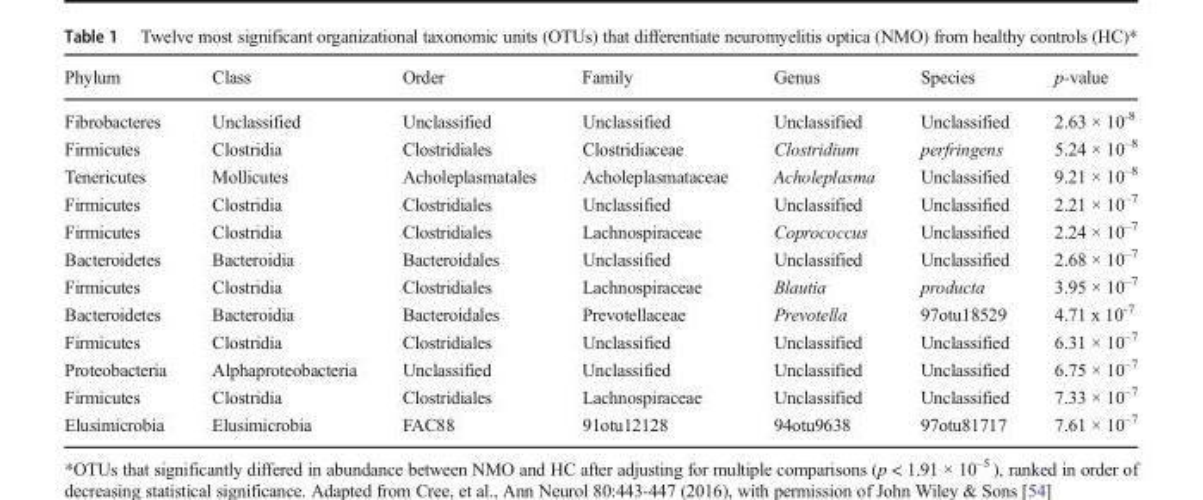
<table><thead><tr><td>Phylum</td><td>Class</td><td>Order</td><td>Family</td><td>Genus</td><td>Species</td><td>p-value</td></tr></thead><tbody><tr><td>Fibrobacteres</td><td>Unclassified</td><td>Unclassified</td><td>Unclassified</td><td>Unclassified</td><td>Unclassified</td><td>2.63 × 10<sup>-8</sup></td></tr><tr><td>Firmicutes</td><td>Clostridia</td><td>Clostridiales</td><td>Clostridiaceae</td><td>Clostridium</td><td>perfringens</td><td>5.24 × 10<sup>–8</sup></td></tr><tr><td>Tenericutes</td><td>Mollicutes</td><td>Acholeplasmatales</td><td>Acholeplasmataceae</td><td>Acholeplasma</td><td>Unclassified</td><td>9.21 × 10<sup>–8</sup></td></tr><tr><td>Firmicutes</td><td>Clostridia</td><td>Clostridiales</td><td>Unclassified</td><td>Unclassified</td><td>Unclassified</td><td>2.21 × 10<sup>–7</sup></td></tr><tr><td>Firmicutes</td><td>Clostridia</td><td>Clostridiales</td><td>Lachnospiraceae</td><td>Coprococcus</td><td>Unclassified</td><td>2.24 × 10<sup>–7</sup></td></tr><tr><td>Bacteroidetes</td><td>Bacteroidia</td><td>Bacteroidales</td><td>Unclassified</td><td>Unclassified</td><td>Unclassified</td><td>2.68 × 10<sup>–7</sup></td></tr><tr><td>Firmicutes</td><td>Clostridia</td><td>Clostridiales</td><td>Lachnospiraceae</td><td>Blautia</td><td>producta</td><td>3.95 × 10<sup>–7</sup></td></tr><tr><td>Bacteroidetes</td><td>Bacteroidia</td><td>Bacteroidales</td><td>Prevotellaceae</td><td>Prevotella</td><td>97otu18529</td><td>4.71 x 10<sup>-7</sup></td></tr><tr><td>Firmicutes</td><td>Clostridia</td><td>Clostridiales</td><td>Unclassified</td><td>Unclassified</td><td>Unclassified</td><td>6.31 × 10<sup>–7</sup></td></tr><tr><td>Proteobacteria</td><td>Alphaproteobacteria</td><td>Unclassified</td><td>Unclassified</td><td>Unclassified</td><td>Unclassified</td><td>6.75 × 10<sup>–7</sup></td></tr><tr><td>Firmicutes</td><td>Clostridia</td><td>Clostridiales</td><td>Lachnospiraceae</td><td>Unclassified</td><td>Unclassified</td><td>7.33 × 10<sup>–7</sup></td></tr><tr><td>Elusimicrobia</td><td>Elusimicrobia</td><td>FAC88</td><td>91otu12128</td><td>94otu9638</td><td>97otu81717</td><td>7.61 × 10<sup>–7</sup></td></tr></tbody></table>